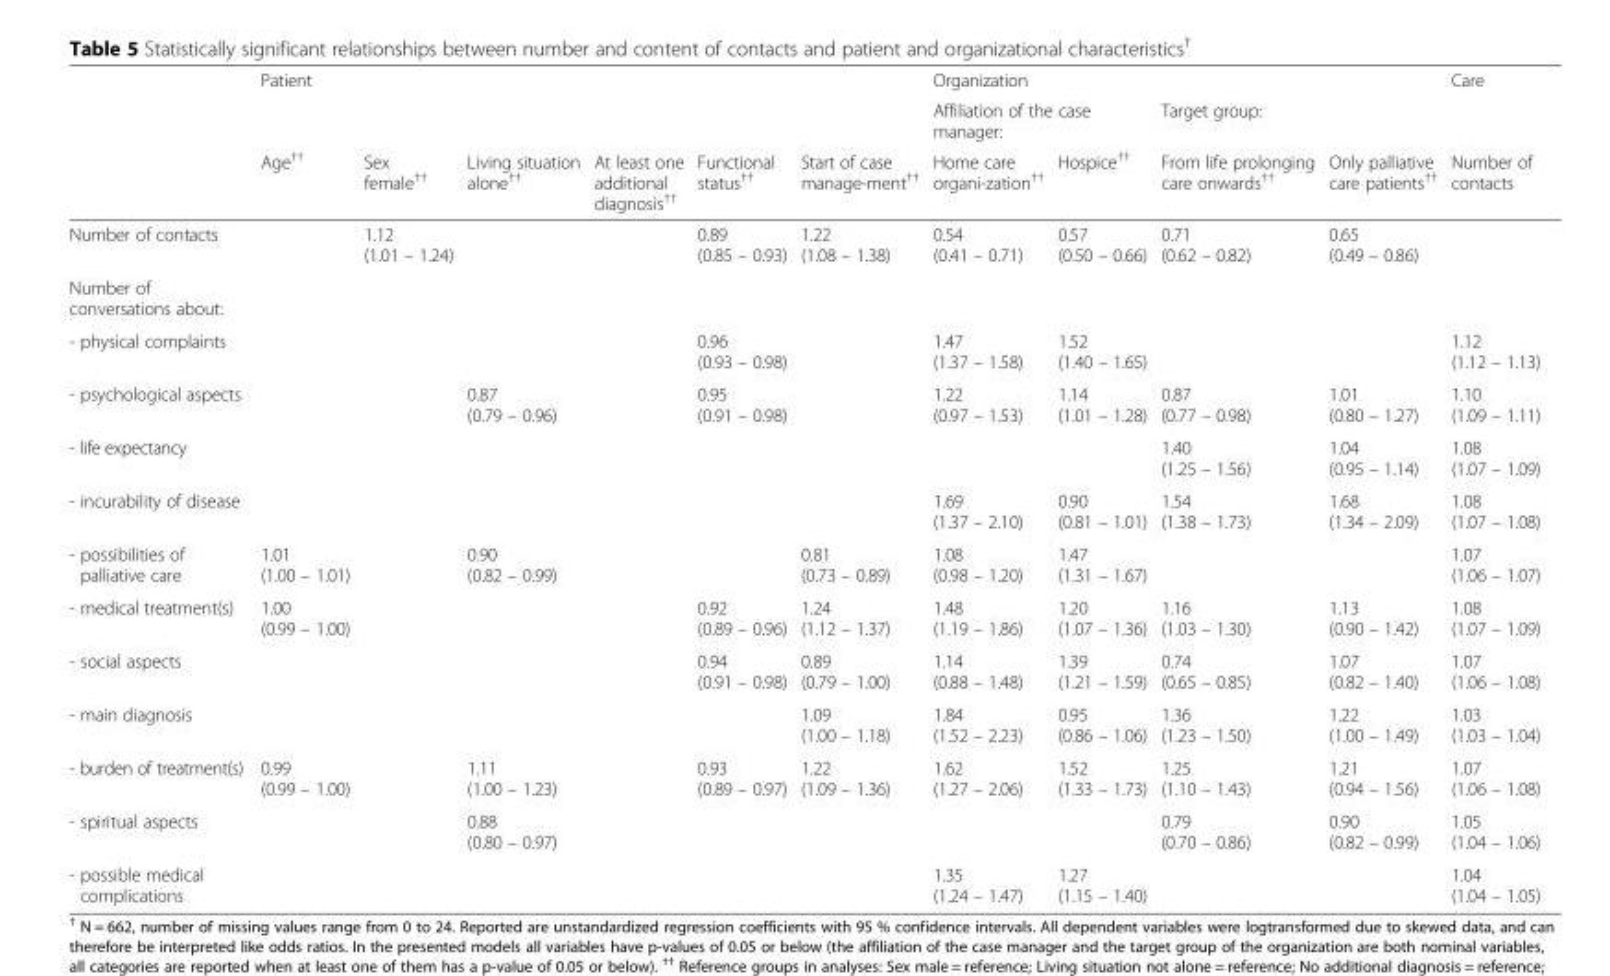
<table><thead><tr><td rowspan="3"></td><td colspan="6">Patient</td><td colspan="4">Organization</td><td rowspan="3">Care Number of contacts</td></tr><tr><td rowspan="2">Age<sup>††</sup></td><td rowspan="2">Sex female<sup>††</sup></td><td rowspan="2">Living situation alone<sup>††</sup></td><td rowspan="2">At least one additional diagnosis<sup>††</sup></td><td rowspan="2">Functional status<sup>††</sup></td><td rowspan="2">Start of case manage-ment<sup>††</sup></td><td colspan="2">Affiliation of the case manager:</td><td colspan="2">Target group:</td></tr><tr><td>Home care organi-zation<sup>††</sup></td><td>Hospice<sup>††</sup></td><td>From life prolonging care onwards<sup>††</sup></td><td>Only palliative care patients<sup>††</sup></td></tr></thead><tbody><tr><td>Number of contacts</td><td></td><td>1.12 (1.01 – 1.24)</td><td></td><td></td><td>0.89 (0.85 – 0.93)</td><td>1.22 (1.08 – 1.38)</td><td>0.54 (0.41 – 0.71)</td><td>0.57 (0.50 – 0.66)</td><td>0.71 (0.62 – 0.82)</td><td>0.65 (0.49 – 0.86)</td><td></td></tr><tr><td colspan="12">Number of conversations about:</td></tr><tr><td>- physical complaints</td><td></td><td></td><td></td><td></td><td>0.96 (0.93 – 0.98)</td><td></td><td>1.47 (1.37 – 1.58)</td><td>1.52 (1.40 – 1.65)</td><td></td><td></td><td>1.12 (1.12 – 1.13)</td></tr><tr><td>- psychological aspects</td><td></td><td></td><td>0.87 (0.79 – 0.96)</td><td></td><td>0.95 (0.91 – 0.98)</td><td></td><td>1.22 (0.97 – 1.53)</td><td>1.14 (1.01 – 1.28)</td><td>0.87 (0.77 – 0.98)</td><td>1.01 (0.80 – 1.27)</td><td>1.10 (1.09 – 1.11)</td></tr><tr><td>- life expectancy</td><td></td><td></td><td></td><td></td><td></td><td></td><td></td><td></td><td>1.40 (1.25 – 1.56)</td><td>1.04 (0.95 – 1.14)</td><td>1.08 (1.07 – 1.09)</td></tr><tr><td>- incurability of disease</td><td></td><td></td><td></td><td></td><td></td><td></td><td>1.69 (1.37 – 2.10)</td><td>0.90 (0.81 – 1.01)</td><td>1.54 (1.38 – 1.73)</td><td>1.68 (1.34 – 2.09)</td><td>1.08 (1.07 – 1.08)</td></tr><tr><td>- possibilities of palliative care</td><td>1.01 (1.00 – 1.01)</td><td></td><td>0.90 (0.82 – 0.99)</td><td></td><td></td><td>0.81 (0.73 – 0.89)</td><td>1.08 (0.98 – 1.20)</td><td>1.47 (1.31 – 1.67)</td><td></td><td></td><td>1.07 (1.06 – 1.07)</td></tr><tr><td>- medical treatment(s)</td><td>1.00 (0.99 – 1.00)</td><td></td><td></td><td></td><td>0.92 (0.89 – 0.96)</td><td>1.24 (1.12 – 1.37)</td><td>1.48 (1.19 – 1.86)</td><td>1.20 (1.07 – 1.36)</td><td>1.16 (1.03 – 1.30)</td><td>1.13 (0.90 – 1.42)</td><td>1.08 (1.07 – 1.09)</td></tr><tr><td>- social aspects</td><td></td><td></td><td></td><td></td><td>0.94 (0.91 – 0.98)</td><td>0.89 (0.79 – 1.00)</td><td>1.14 (0.88 – 1.48)</td><td>1.39 (1.21 – 1.59)</td><td>0.74 (0.65 – 0.85)</td><td>1.07 (0.82 – 1.40)</td><td>1.07 (1.06 – 1.08)</td></tr><tr><td>- main diagnosis</td><td></td><td></td><td></td><td></td><td></td><td>1.09 (1.00 – 1.18)</td><td>1.84 (1.52 – 2.23)</td><td>0.95 (0.86 – 1.06)</td><td>1.36 (1.23 – 1.50)</td><td>1.22 (1.00 – 1.49)</td><td>1.03 (1.03 – 1.04)</td></tr><tr><td>- burden of treatment(s)</td><td>0.99 (0.99 – 1.00)</td><td></td><td>1.11 (1.00 – 1.23)</td><td></td><td>0.93 (0.89 – 0.97)</td><td>1.22 (1.09 – 1.36)</td><td>1.62 (1.27 – 2.06)</td><td>1.52 (1.33 – 1.73)</td><td>1.25 (1.10 – 1.43)</td><td>1.21 (0.94 – 1.56)</td><td>1.07 (1.06 – 1.08)</td></tr><tr><td>- spiritual aspects</td><td></td><td></td><td>0.88 (0.80 – 0.97)</td><td></td><td></td><td></td><td></td><td></td><td>0.79 (0.70 – 0.86)</td><td>0.90 (0.82 – 0.99)</td><td>1.05 (1.04 – 1.06)</td></tr><tr><td>- possible medical complications</td><td></td><td></td><td></td><td></td><td></td><td></td><td>1.35 (1.24 – 1.47)</td><td>1.27 (1.15 – 1.40)</td><td></td><td></td><td>1.04 (1.04 – 1.05)</td></tr></tbody></table>